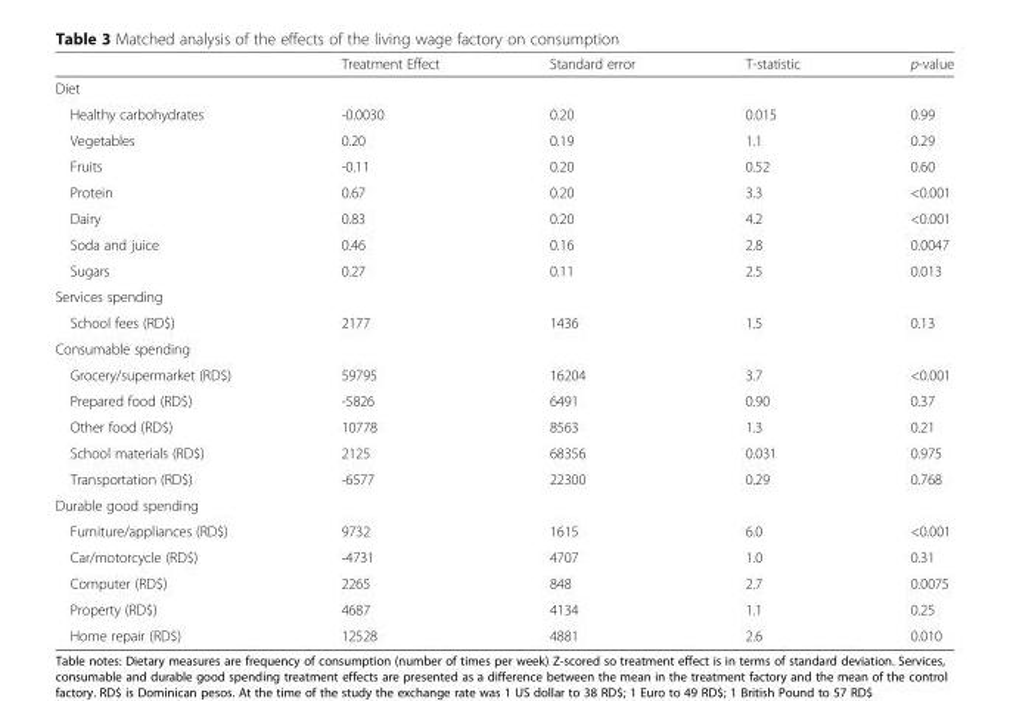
<table><thead><tr><td></td><td>Treatment Effect</td><td>Standard error</td><td>T-statistic</td><td>p-value</td></tr></thead><tbody><tr><td colspan="5">Diet</td></tr><tr><td>Healthy carbohydrates</td><td>-0.0030</td><td>0.20</td><td>0.015</td><td>0.99</td></tr><tr><td>Vegetables</td><td>0.20</td><td>0.19</td><td>1.1</td><td>0.29</td></tr><tr><td>Fruits</td><td>-0.11</td><td>0.20</td><td>0.52</td><td>0.60</td></tr><tr><td>Protein</td><td>0.67</td><td>0.20</td><td>3.3</td><td>&lt;0.001</td></tr><tr><td>Dairy</td><td>0.83</td><td>0.20</td><td>4.2</td><td>&lt;0.001</td></tr><tr><td>Soda and juice</td><td>0.46</td><td>0.16</td><td>2.8</td><td>0.0047</td></tr><tr><td>Sugars</td><td>0.27</td><td>0.11</td><td>2.5</td><td>0.013</td></tr><tr><td colspan="5">Services spending</td></tr><tr><td>School fees (RD$)</td><td>2177</td><td>1436</td><td>1.5</td><td>0.13</td></tr><tr><td colspan="5">Consumable spending</td></tr><tr><td>Grocery/supermarket (RD$)</td><td>59795</td><td>16204</td><td>3.7</td><td>&lt;0.001</td></tr><tr><td>Prepared food (RD$)</td><td>-5826</td><td>6491</td><td>0.90</td><td>0.37</td></tr><tr><td>Other food (RD$)</td><td>10778</td><td>8563</td><td>1.3</td><td>0.21</td></tr><tr><td>School materials (RD$)</td><td>2125</td><td>68356</td><td>0.031</td><td>0.975</td></tr><tr><td>Transportation (RD$)</td><td>-6577</td><td>22300</td><td>0.29</td><td>0.768</td></tr><tr><td colspan="5">Durable good spending</td></tr><tr><td>Furniture/appliances (RD$)</td><td>9732</td><td>1615</td><td>6.0</td><td>&lt;0.001</td></tr><tr><td>Car/motorcycle (RD$)</td><td>-4731</td><td>4707</td><td>1.0</td><td>0.31</td></tr><tr><td>Computer (RD$)</td><td>2265</td><td>848</td><td>2.7</td><td>0.0075</td></tr><tr><td>Property (RD$)</td><td>4687</td><td>4134</td><td>1.1</td><td>0.25</td></tr><tr><td>Home repair (RD$)</td><td>12528</td><td>4881</td><td>2.6</td><td>0.010</td></tr></tbody></table>